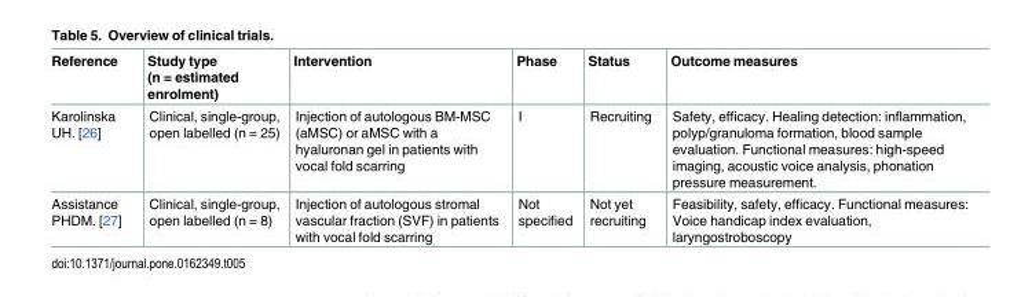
<table><thead><tr><td>Reference</td><td>Study type (n = estimated enrolment)</td><td>Intervention</td><td>Phase</td><td>Status</td><td>Outcome measures</td></tr></thead><tbody><tr><td>Karolinska UH. [26]</td><td>Clinical, single-group, open labelled (n = 25)</td><td>Injection of autologous BM-MSC (aMSC) or aMSC with a hyaluronan gel in patients with vocal fold scarring</td><td>I</td><td>Recruiting</td><td>Safety, efficacy. Healing detection: inflammation, polyp/granuloma formation, blood sample evaluation. Functional measures: high-speed imaging, acoustic voice analysis, phonation pressure measurement.</td></tr><tr><td>Assistance PHDM. [27]</td><td>Clinical, single-group, open labelled (n = 8)</td><td>Injection of autologous stromal vascular fraction (SVF) in patients with vocal fold scarring</td><td>Not specified</td><td>Not yet recruiting</td><td>Feasibility, safety, efficacy. Functional measures: Voice handicap index evaluation, laryngostroboscopy</td></tr></tbody></table>